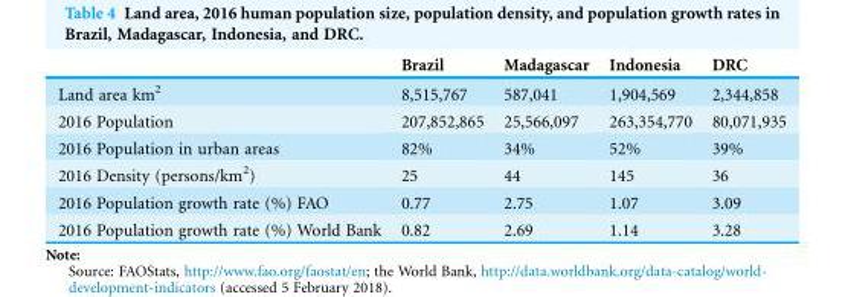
<table><thead><tr><td></td><td>Brazil</td><td>Madagascar</td><td>Indonesia</td><td>DRC</td></tr></thead><tbody><tr><td>Land area km<sup>2</sup></td><td>8,515,767</td><td>587,041</td><td>1,904,569</td><td>2,344,858</td></tr><tr><td>2016 Population</td><td>207,852,865</td><td>25,566,097</td><td>263,354,770</td><td>80,071,935</td></tr><tr><td>2016 Population in urban areas</td><td>82%</td><td>34%</td><td>52%</td><td>39%</td></tr><tr><td>2016 Density (persons/km<sup>2</sup>)</td><td>25</td><td>44</td><td>145</td><td>36</td></tr><tr><td>2016 Population growth rate (%) FAO</td><td>0.77</td><td>2.75</td><td>1.07</td><td>3.09</td></tr><tr><td>2016 Population growth rate (%) World Bank</td><td>0.82</td><td>2.69</td><td>1.14</td><td>3.28</td></tr></tbody></table>